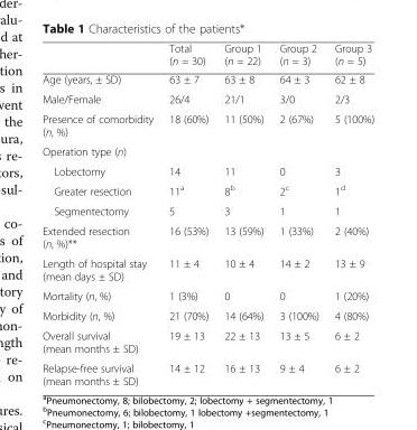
<table><thead><tr><td></td><td>Total (n = 30)</td><td>Group 1 (n = 22)</td><td>Group 2 (n = 3)</td><td>Group 3 (n = 5)</td></tr></thead><tbody><tr><td>Age (years, ± SD)</td><td>63 ± 7</td><td>63 ± 8</td><td>64 ± 3</td><td>62 ± 8</td></tr><tr><td>Male/Female</td><td>26/4</td><td>21/1</td><td>3/0</td><td>2/3</td></tr><tr><td>Presence of comorbidity (n, %)</td><td>18 (60%)</td><td>11 (50%)</td><td>2 (67%)</td><td>5 (100%)</td></tr><tr><td colspan="5">Operation type (n)</td></tr><tr><td>Lobectomy</td><td>14</td><td>11</td><td>0</td><td>3</td></tr><tr><td>Greater resection</td><td>11<sup>a</sup></td><td>8<sup>b</sup></td><td>2<sup>c</sup></td><td>1<sup>d</sup></td></tr><tr><td>Segmentectomy</td><td>5</td><td>3</td><td>1</td><td>1</td></tr><tr><td>Extended resection (n, %)**</td><td>16 (53%)</td><td>13 (59%)</td><td>1 (33%)</td><td>2 (40%)</td></tr><tr><td>Length of hospital stay (mean days ± SD)</td><td>11 ± 4</td><td>10 ± 4</td><td>14 ± 2</td><td>13 ± 9</td></tr><tr><td>Mortality (n, %)</td><td>1 (3%)</td><td>0</td><td>0</td><td>1 (20%)</td></tr><tr><td>Morbidity (n, %)</td><td>21 (70%)</td><td>14 (64%)</td><td>3 (100%)</td><td>4 (80%)</td></tr><tr><td>Overall survival (mean months ± SD)</td><td>19 ± 13</td><td>22 ± 13</td><td>13 ± 5</td><td>6 ± 2</td></tr><tr><td>Relapse-free survival (mean months ± SD)</td><td>14 ± 12</td><td>16 ± 13</td><td>9 ± 4</td><td>6 ± 2</td></tr></tbody></table>